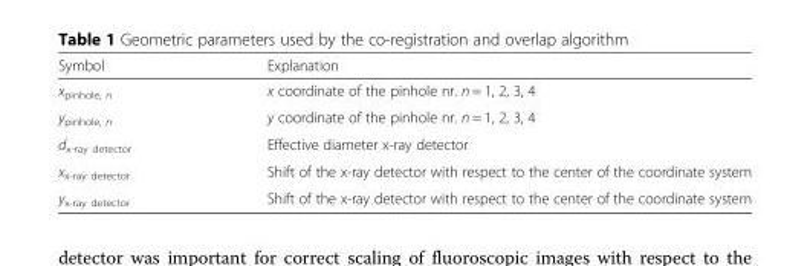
<table><thead><tr><td>Symbol</td><td>Explanation</td></tr></thead><tbody><tr><td>x<sub>pinhole, n</sub></td><td>x coordinate of the pinhole nr. n = 1, 2, 3, 4</td></tr><tr><td>y<sub>pinhole, n</sub></td><td>y coordinate of the pinhole nr. n = 1, 2, 3, 4</td></tr><tr><td>d<sub>x-ray detector</sub></td><td>Effective diameter x-ray detector</td></tr><tr><td>x<sub>x-ray detector</sub></td><td>Shift of the x-ray detector with respect to the center of the coordinate system</td></tr><tr><td>y<sub>x-ray detector</sub></td><td>Shift of the x-ray detector with respect to the center of the coordinate system</td></tr></tbody></table>